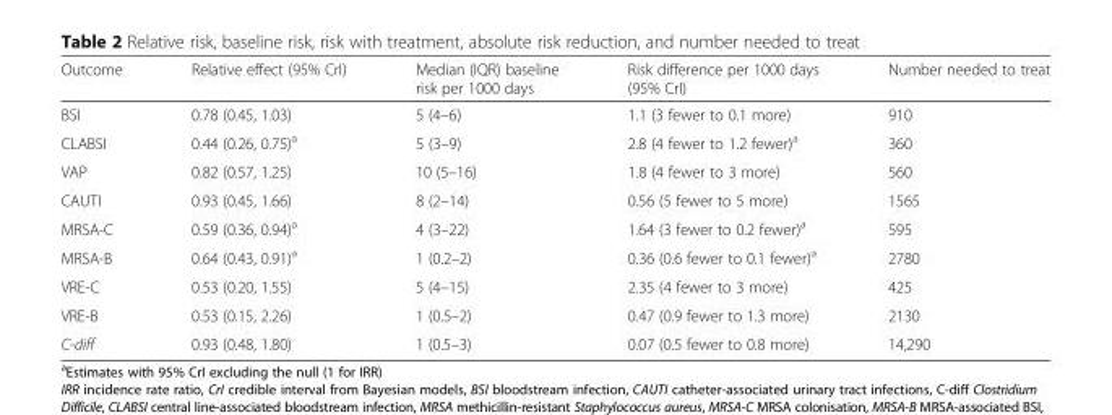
<table><thead><tr><td>Outcome</td><td>Relative effect (95% CrI)</td><td>Median (IQR) baseline risk per 1000 days</td><td>Risk difference per 1000 days (95% CrI)</td><td>Number needed to treat</td></tr></thead><tbody><tr><td>BSI</td><td>0.78 (0.45, 1.03)</td><td>5 (4–6)</td><td>1.1 (3 fewer to 0.1 more)</td><td>910</td></tr><tr><td>CLABSI</td><td>0.44 (0.26, 0.75)<sup>a</sup></td><td>5 (3–9)</td><td>2.8 (4 fewer to 1.2 fewer)<sup>a</sup></td><td>360</td></tr><tr><td>VAP</td><td>0.82 (0.57, 1.25)</td><td>10 (5–16)</td><td>1.8 (4 fewer to 3 more)</td><td>560</td></tr><tr><td>CAUTI</td><td>0.93 (0.45, 1.66)</td><td>8 (2–14)</td><td>0.56 (5 fewer to 5 more)</td><td>1565</td></tr><tr><td>MRSA-C</td><td>0.59 (0.36, 0.94)<sup>a</sup></td><td>4 (3–22)</td><td>1.64 (3 fewer to 0.2 fewer)<sup>a</sup></td><td>595</td></tr><tr><td>MRSA-B</td><td>0.64 (0.43, 0.91)<sup>a</sup></td><td>1 (0.2–2)</td><td>0.36 (0.6 fewer to 0.1 fewer)<sup>a</sup></td><td>2780</td></tr><tr><td>VRE-C</td><td>0.53 (0.20, 1.55)</td><td>5 (4–15)</td><td>2.35 (4 fewer to 3 more)</td><td>425</td></tr><tr><td>VRE-B</td><td>0.53 (0.15, 2.26)</td><td>1 (0.5–2)</td><td>0.47 (0.9 fewer to 1.3 more)</td><td>2130</td></tr><tr><td>C-diff</td><td>0.93 (0.48, 1.80)</td><td>1 (0.5–3)</td><td>0.07 (0.5 fewer to 0.8 more)</td><td>14,290</td></tr></tbody></table>